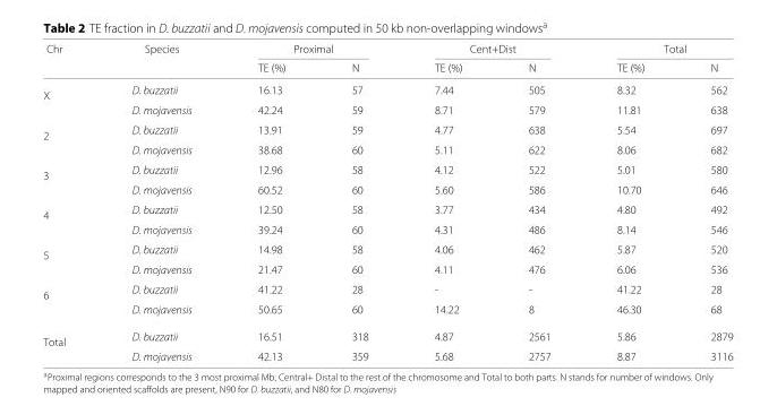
<table><thead><tr><td rowspan="2">Chr</td><td rowspan="2">Species</td><td colspan="2">Proximal</td><td colspan="2">Cent+Dist</td><td colspan="2">Total</td></tr><tr><td>TE (%)</td><td>N</td><td>TE (%)</td><td>N</td><td>TE (%)</td><td>N</td></tr></thead><tbody><tr><td rowspan="2">X</td><td>D. buzzatii</td><td>16.13</td><td>57</td><td>7.44</td><td>505</td><td>8.32</td><td>562</td></tr><tr><td>D. mojavensis</td><td>42.24</td><td>59</td><td>8.71</td><td>579</td><td>11.81</td><td>638</td></tr><tr><td rowspan="2">2</td><td>D. buzzatii</td><td>13.91</td><td>59</td><td>4.77</td><td>638</td><td>5.54</td><td>697</td></tr><tr><td>D. mojavensis</td><td>38.68</td><td>60</td><td>5.11</td><td>622</td><td>8.06</td><td>682</td></tr><tr><td rowspan="2">3</td><td>D. buzzatii</td><td>12.96</td><td>58</td><td>4.12</td><td>522</td><td>5.01</td><td>580</td></tr><tr><td>D. mojavensis</td><td>60.52</td><td>60</td><td>5.60</td><td>586</td><td>10.70</td><td>646</td></tr><tr><td rowspan="2">4</td><td>D. buzzatii</td><td>12.50</td><td>58</td><td>3.77</td><td>434</td><td>4.80</td><td>492</td></tr><tr><td>D. mojavensis</td><td>39.24</td><td>60</td><td>4.31</td><td>486</td><td>8.14</td><td>546</td></tr><tr><td rowspan="2">5</td><td>D. buzzatii</td><td>14.98</td><td>58</td><td>4.06</td><td>462</td><td>5.87</td><td>520</td></tr><tr><td>D. mojavensis</td><td>21.47</td><td>60</td><td>4.11</td><td>476</td><td>6.06</td><td>536</td></tr><tr><td rowspan="2">6</td><td>D. buzzatii</td><td>41.22</td><td>28</td><td>-</td><td>-</td><td>41.22</td><td>28</td></tr><tr><td>D. mojavensis</td><td>50.65</td><td>60</td><td>14.22</td><td>8</td><td>46.30</td><td>68</td></tr><tr><td rowspan="2">Total</td><td>D. buzzatii</td><td>16.51</td><td>318</td><td>4.87</td><td>2561</td><td>5.86</td><td>2879</td></tr><tr><td>D. mojavensis</td><td>42.13</td><td>359</td><td>5.68</td><td>2757</td><td>8.87</td><td>3116</td></tr></tbody></table>